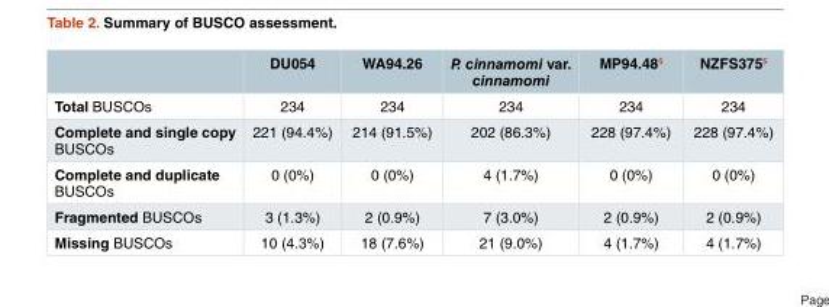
<table><thead><tr><td></td><td>DU054</td><td>WA94.26</td><td>P. cinnamomi var. cinnamomi</td><td>MP94.48<sup>5</sup></td><td>NZFS375<sup>5</sup></td></tr></thead><tbody><tr><td>Total BUSCOs</td><td>234</td><td>234</td><td>234</td><td>234</td><td>234</td></tr><tr><td>Complete and single copy BUSCOs</td><td>221 (94.4%)</td><td>214 (91.5%)</td><td>202 (86.3%)</td><td>228 (97.4%)</td><td>228 (97.4%)</td></tr><tr><td>Complete and duplicate BUSCOs</td><td>0 (0%)</td><td>0 (0%)</td><td>4 (1.7%)</td><td>0 (0%)</td><td>0 (0%)</td></tr><tr><td>Fragmented BUSCOs</td><td>3 (1.3%)</td><td>2 (0.9%)</td><td>7 (3.0%)</td><td>2 (0.9%)</td><td>2 (0.9%)</td></tr><tr><td>Missing BUSCOs</td><td>10 (4.3%)</td><td>18 (7.6%)</td><td>21 (9.0%)</td><td>4 (1.7%)</td><td>4 (1.7%)</td></tr></tbody></table>